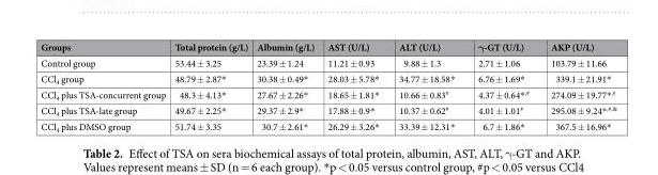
<table><thead><tr><td>Groups</td><td>Total protein (g/L)</td><td>Albumin (g/L)</td><td>AST (U/L)</td><td>ALT (U/L)</td><td>γ-GT (U/L)</td><td>AKP (U/L)</td></tr></thead><tbody><tr><td>Control group</td><td>53.44 ± 3.25</td><td>23.39 ± 1.24</td><td>11.21 ± 0.93</td><td>9.88 ± 1.3</td><td>2.71 ± 1.06</td><td>103.79 ± 11.66</td></tr><tr><td>CCl<sub>4</sub> group</td><td>48.79 ± 2.87*</td><td>30.38 ± 0.49*</td><td>28.03 ± 5.78*</td><td>34.77 ± 18.58*</td><td>6.76 ± 1.69*</td><td>339.1 ± 21.91*</td></tr><tr><td>CCl<sub>4</sub> plus TSA-concurrent group</td><td>48.3 ± 4.13*</td><td>27.67 ± 2.26*</td><td>18.65 ± 1.81*</td><td>10.66 ± 0.83<sup>#</sup></td><td>4.37 ± 0.64*<sup>,#</sup></td><td>274.09 ± 19.77*<sup>,#</sup></td></tr><tr><td>CCl<sub>4</sub> plus TSA-late group</td><td>49.67 ± 2.25*</td><td>29.37 ± 2.9*</td><td>17.88 ± 0.9*</td><td>10.37 ± 0.62<sup>#</sup></td><td>4.01 ± 1.01<sup>#</sup></td><td>295.08 ± 9.24*<sup>,#,&amp;</sup></td></tr><tr><td>CCl<sub>4</sub> plus DMSO group</td><td>51.74 ± 3.35</td><td>30.7 ± 2.61*</td><td>26.29 ± 3.26*</td><td>33.39 ± 12.31*</td><td>6.7 ± 1.86*</td><td>367.5 ± 16.96*</td></tr></tbody></table>